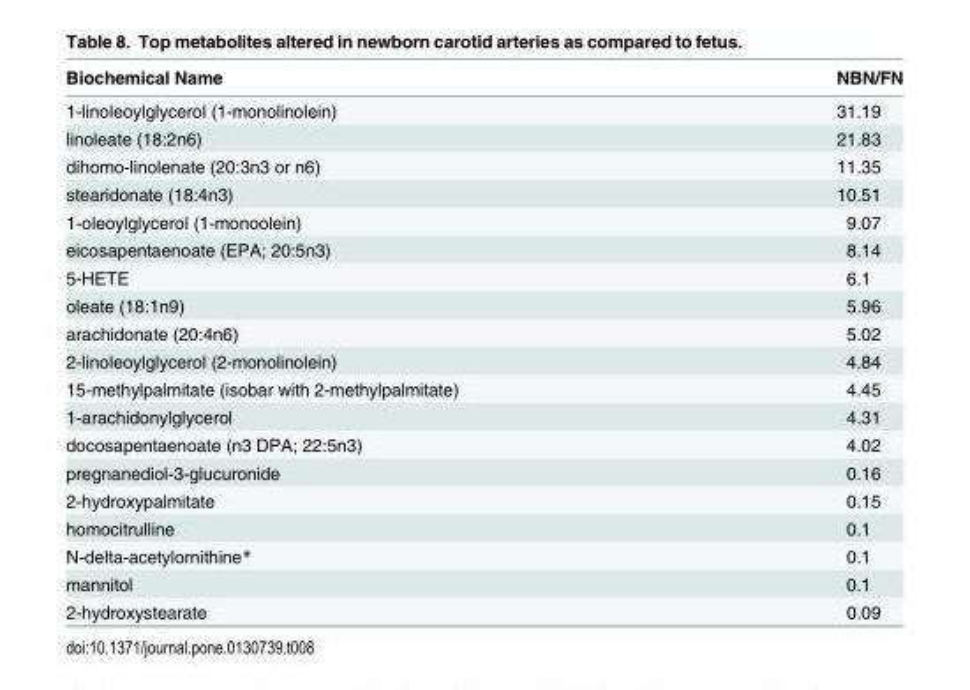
<table><thead><tr><td>Biochemical Name</td><td>NBN/FN</td></tr></thead><tbody><tr><td>1-linoleoylglycerol (1-monolinolein)</td><td>31.19</td></tr><tr><td>linoleate (18:2n6)</td><td>21.83</td></tr><tr><td>dihomo-linolenate (20:3n3 or n6)</td><td>11.35</td></tr><tr><td>stearidonate (18:4n3)</td><td>10.51</td></tr><tr><td>1-oleoylglycerol (1-monoolein)</td><td>9.07</td></tr><tr><td>eicosapentaenoate (EPA; 20:5n3)</td><td>8.14</td></tr><tr><td>5-HETE</td><td>6.1</td></tr><tr><td>oleate (18:1n9)</td><td>5.96</td></tr><tr><td>arachidonate (20:4n6)</td><td>5.02</td></tr><tr><td>2-linoleoylglycerol (2-monolinolein)</td><td>4.84</td></tr><tr><td>15-methylpalmitate (isobar with 2-methylpalmitate)</td><td>4.45</td></tr><tr><td>1-arachidonylglycerol</td><td>4.31</td></tr><tr><td>docosapentaenoate (n3 DPA; 22:5n3)</td><td>4.02</td></tr><tr><td>pregnanediol-3-glucuronide</td><td>0.16</td></tr><tr><td>2-hydroxypalmitate</td><td>0.15</td></tr><tr><td>homocitrulline</td><td>0.1</td></tr><tr><td>N-delta-acetylornithine*</td><td>0.1</td></tr><tr><td>mannitol</td><td>0.1</td></tr><tr><td>2-hydroxystearate</td><td>0.09</td></tr></tbody></table>